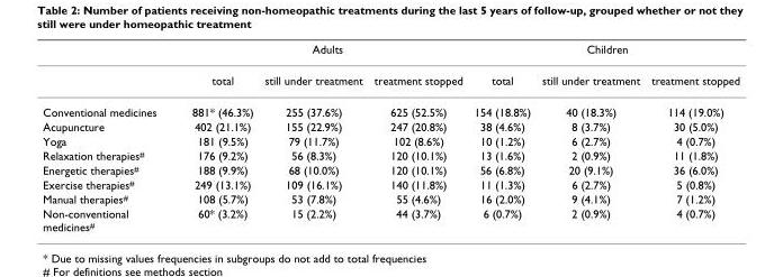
<table><thead><tr><td rowspan="2"></td><td colspan="3">Adults</td><td colspan="3">Children</td></tr><tr><td>total</td><td>still under treatment</td><td>treatment stopped</td><td>total</td><td>still under treatment</td><td>treatment stopped</td></tr></thead><tbody><tr><td>Conventional medicines</td><td>881* (46.3%)</td><td>255 (37.6%)</td><td>625 (52.5%)</td><td>154 (18.8%)</td><td>40 (18.3%)</td><td>114 (19.0%)</td></tr><tr><td>Acupuncture</td><td>402 (21.1%)</td><td>155 (22.9%)</td><td>247 (20.8%)</td><td>38 (4.6%)</td><td>8 (3.7%)</td><td>30 (5.0%)</td></tr><tr><td>Yoga</td><td>181 (9.5%)</td><td>79 (11.7%)</td><td>102 (8.6%)</td><td>10 (1.2%)</td><td>6 (2.7%)</td><td>4 (0.7%)</td></tr><tr><td>Relaxation therapies<sup>#</sup></td><td>176 (9.2%)</td><td>56 (8.3%)</td><td>120 (10.1%)</td><td>13 (1.6%)</td><td>2 (0.9%)</td><td>11 (1.8%)</td></tr><tr><td>Energetic therapies<sup>#</sup></td><td>188 (9.9%)</td><td>68 (10.0%)</td><td>120 (10.1%)</td><td>56 (6.8%)</td><td>20 (9.1%)</td><td>36 (6.0%)</td></tr><tr><td>Exercise therapies<sup>#</sup></td><td>249 (13.1%)</td><td>109 (16.1%)</td><td>140 (11.8%)</td><td>11 (1.3%)</td><td>6 (2.7%)</td><td>5 (0.8%)</td></tr><tr><td>Manual therapies<sup>#</sup></td><td>108 (5.7%)</td><td>53 (7.8%)</td><td>55 (4.6%)</td><td>16 (2.0%)</td><td>9 (4.1%)</td><td>7 (1.2%)</td></tr><tr><td>Non-conventional medicines<sup>#</sup></td><td>60* (3.2%)</td><td>15 (2.2%)</td><td>44 (3.7%)</td><td>6 (0.7%)</td><td>2 (0.9%)</td><td>4 (0.7%)</td></tr></tbody></table>